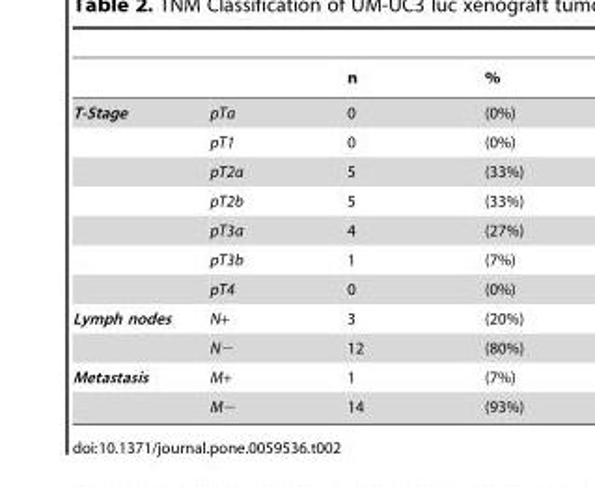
<table><thead><tr><td></td><td></td><td>n</td><td>%</td></tr></thead><tbody><tr><td rowspan="7">T-Stage</td><td>pTa</td><td>0</td><td>(0%)</td></tr><tr><td>pT1</td><td>0</td><td>(0%)</td></tr><tr><td>pT2a</td><td>5</td><td>(33%)</td></tr><tr><td>pT2b</td><td>5</td><td>(33%)</td></tr><tr><td>pT3a</td><td>4</td><td>(27%)</td></tr><tr><td>pT3b</td><td>1</td><td>(7%)</td></tr><tr><td>pT4</td><td>0</td><td>(0%)</td></tr><tr><td rowspan="2">Lymph nodes</td><td>N+</td><td>3</td><td>(20%)</td></tr><tr><td>N−</td><td>12</td><td>(80%)</td></tr><tr><td rowspan="2">Metastasis</td><td>M+</td><td>1</td><td>(7%)</td></tr><tr><td>M−</td><td>14</td><td>(93%)</td></tr></tbody></table>